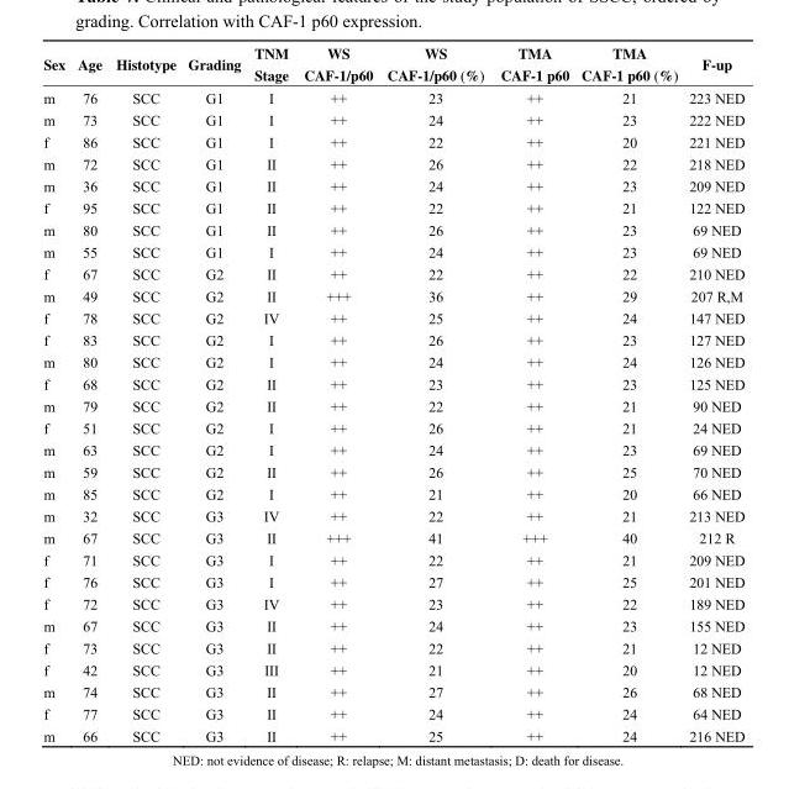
<table><thead><tr><td>Sex</td><td>Age</td><td>Histotype</td><td>Grading</td><td>TNM Stage</td><td>WS CAF-1/p60</td><td>WS CAF-1/p60 (%)</td><td>TMA CAF-1 p60</td><td>TMA CAF-1 p60 (%)</td><td>F-up</td></tr></thead><tbody><tr><td>m</td><td>76</td><td>SCC</td><td>G1</td><td>I</td><td>++</td><td>23</td><td>++</td><td>21</td><td>223 NED</td></tr><tr><td>m</td><td>73</td><td>SCC</td><td>G1</td><td>I</td><td>++</td><td>24</td><td>++</td><td>23</td><td>222 NED</td></tr><tr><td>f</td><td>86</td><td>SCC</td><td>G1</td><td>I</td><td>++</td><td>22</td><td>++</td><td>20</td><td>221 NED</td></tr><tr><td>m</td><td>72</td><td>SCC</td><td>G1</td><td>II</td><td>++</td><td>26</td><td>++</td><td>22</td><td>218 NED</td></tr><tr><td>m</td><td>36</td><td>SCC</td><td>G1</td><td>II</td><td>++</td><td>24</td><td>++</td><td>23</td><td>209 NED</td></tr><tr><td>f</td><td>95</td><td>SCC</td><td>G1</td><td>II</td><td>++</td><td>22</td><td>++</td><td>21</td><td>122 NED</td></tr><tr><td>m</td><td>80</td><td>SCC</td><td>G1</td><td>II</td><td>++</td><td>26</td><td>++</td><td>23</td><td>69 NED</td></tr><tr><td>m</td><td>55</td><td>SCC</td><td>G1</td><td>I</td><td>++</td><td>24</td><td>++</td><td>23</td><td>69 NED</td></tr><tr><td>f</td><td>67</td><td>SCC</td><td>G2</td><td>II</td><td>++</td><td>22</td><td>++</td><td>22</td><td>210 NED</td></tr><tr><td>m</td><td>49</td><td>SCC</td><td>G2</td><td>II</td><td>+++</td><td>36</td><td>++</td><td>29</td><td>207 R,M</td></tr><tr><td>f</td><td>78</td><td>SCC</td><td>G2</td><td>IV</td><td>++</td><td>25</td><td>++</td><td>24</td><td>147 NED</td></tr><tr><td>f</td><td>83</td><td>SCC</td><td>G2</td><td>I</td><td>++</td><td>26</td><td>++</td><td>23</td><td>127 NED</td></tr><tr><td>m</td><td>80</td><td>SCC</td><td>G2</td><td>I</td><td>++</td><td>24</td><td>++</td><td>24</td><td>126 NED</td></tr><tr><td>f</td><td>68</td><td>SCC</td><td>G2</td><td>II</td><td>++</td><td>23</td><td>++</td><td>23</td><td>125 NED</td></tr><tr><td>m</td><td>79</td><td>SCC</td><td>G2</td><td>II</td><td>++</td><td>22</td><td>++</td><td>21</td><td>90 NED</td></tr><tr><td>f</td><td>51</td><td>SCC</td><td>G2</td><td>I</td><td>++</td><td>26</td><td>++</td><td>21</td><td>24 NED</td></tr><tr><td>m</td><td>63</td><td>SCC</td><td>G2</td><td>I</td><td>++</td><td>24</td><td>++</td><td>23</td><td>69 NED</td></tr><tr><td>m</td><td>59</td><td>SCC</td><td>G2</td><td>II</td><td>++</td><td>26</td><td>++</td><td>25</td><td>70 NED</td></tr><tr><td>m</td><td>85</td><td>SCC</td><td>G2</td><td>I</td><td>++</td><td>21</td><td>++</td><td>20</td><td>66 NED</td></tr><tr><td>m</td><td>32</td><td>SCC</td><td>G3</td><td>IV</td><td>++</td><td>22</td><td>++</td><td>21</td><td>213 NED</td></tr><tr><td>m</td><td>67</td><td>SCC</td><td>G3</td><td>II</td><td>+++</td><td>41</td><td>+++</td><td>40</td><td>212 R</td></tr><tr><td>f</td><td>71</td><td>SCC</td><td>G3</td><td>I</td><td>++</td><td>22</td><td>++</td><td>21</td><td>209 NED</td></tr><tr><td>f</td><td>76</td><td>SCC</td><td>G3</td><td>I</td><td>++</td><td>27</td><td>++</td><td>25</td><td>201 NED</td></tr><tr><td>f</td><td>72</td><td>SCC</td><td>G3</td><td>IV</td><td>++</td><td>23</td><td>++</td><td>22</td><td>189 NED</td></tr><tr><td>m</td><td>67</td><td>SCC</td><td>G3</td><td>II</td><td>++</td><td>24</td><td>++</td><td>23</td><td>155 NED</td></tr><tr><td>f</td><td>73</td><td>SCC</td><td>G3</td><td>II</td><td>++</td><td>22</td><td>++</td><td>21</td><td>12 NED</td></tr><tr><td>f</td><td>42</td><td>SCC</td><td>G3</td><td>III</td><td>++</td><td>21</td><td>++</td><td>20</td><td>12 NED</td></tr><tr><td>m</td><td>74</td><td>SCC</td><td>G3</td><td>II</td><td>++</td><td>27</td><td>++</td><td>26</td><td>68 NED</td></tr><tr><td>f</td><td>77</td><td>SCC</td><td>G3</td><td>II</td><td>++</td><td>24</td><td>++</td><td>24</td><td>64 NED</td></tr><tr><td>m</td><td>66</td><td>SCC</td><td>G3</td><td>II</td><td>++</td><td>25</td><td>++</td><td>24</td><td>216 NED</td></tr></tbody></table>